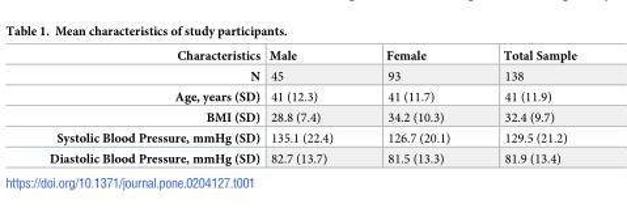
<table><thead><tr><td>Characteristics</td><td>Male</td><td>Female</td><td>Total Sample</td></tr></thead><tbody><tr><td>N</td><td>45</td><td>93</td><td>138</td></tr><tr><td>Age, years (SD)</td><td>41 (12.3)</td><td>41 (11.7)</td><td>41 (11.9)</td></tr><tr><td>BMI (SD)</td><td>28.8 (7.4)</td><td>34.2 (10.3)</td><td>32.4 (9.7)</td></tr><tr><td>Systolic Blood Pressure, mmHg (SD)</td><td>135.1 (22.4)</td><td>126.7 (20.1)</td><td>129.5 (21.2)</td></tr><tr><td>Diastolic Blood Pressure, mmHg (SD)</td><td>82.7 (13.7)</td><td>81.5 (13.3)</td><td>81.9 (13.4)</td></tr></tbody></table>